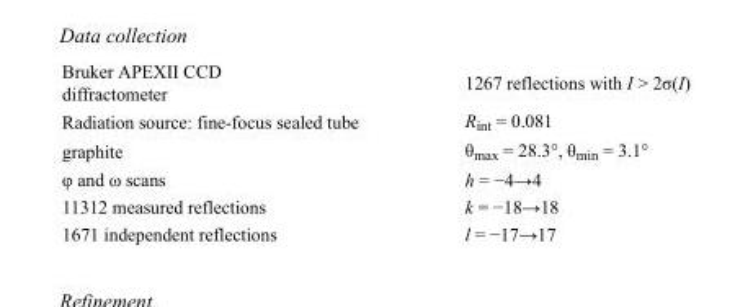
<table><tbody><tr><td>Bruker APEXII CCD diffractometer</td><td>1267 reflections with I &gt; 2σ(I)</td></tr><tr><td>Radiation source: fine-focus sealed tube</td><td>R<sub>int</sub> = 0.081</td></tr><tr><td>graphite</td><td>θ<sub>max</sub> = 28.3°, θ<sub>min</sub> = 3.1°</td></tr><tr><td>φ and ω scans</td><td>h = −4→4</td></tr><tr><td>11312 measured reflections</td><td>k = −18→18</td></tr><tr><td>1671 independent reflections</td><td>l = −17→17</td></tr></tbody></table>